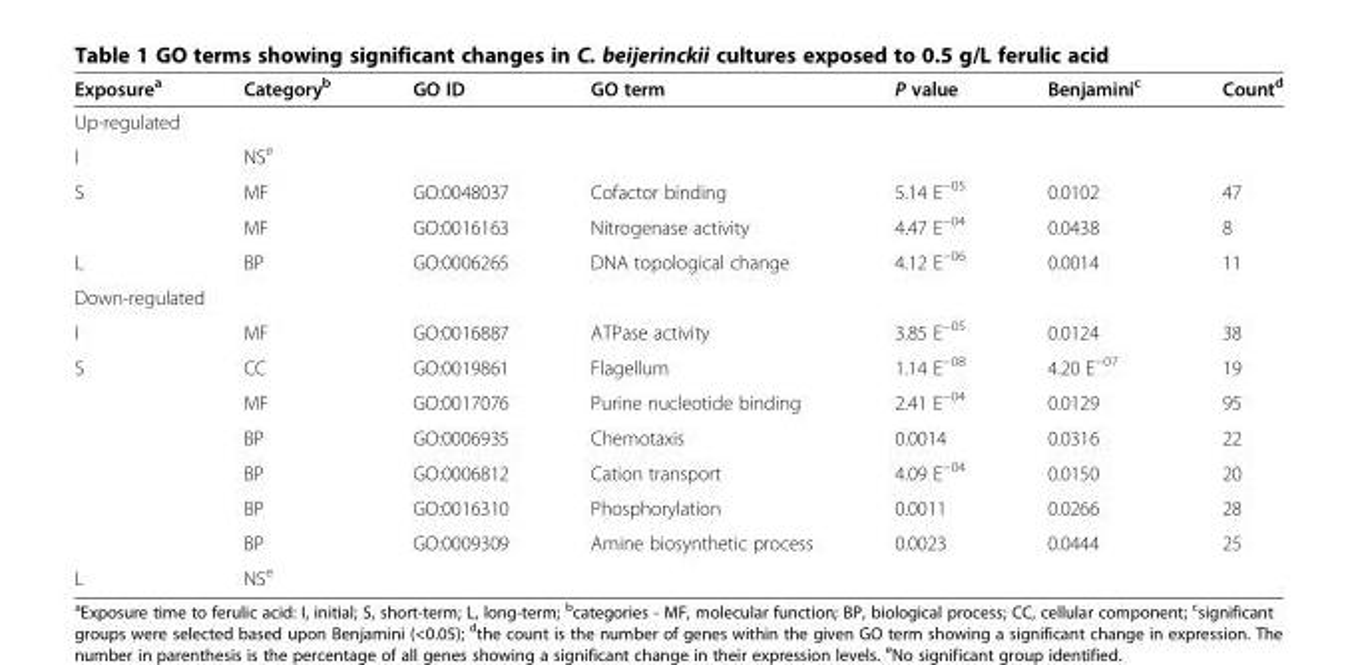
<table><thead><tr><td>Exposure<sup>a</sup></td><td>Category<sup>b</sup></td><td>GO ID</td><td>GO term</td><td>P value</td><td>Benjamini<sup>c</sup></td><td>Count<sup>d</sup></td></tr></thead><tbody><tr><td colspan="7">Up-regulated</td></tr><tr><td>I</td><td>NS<sup>e</sup></td><td></td><td></td><td></td><td></td><td></td></tr><tr><td rowspan="2">S</td><td>MF</td><td>GO:0048037</td><td>Cofactor binding</td><td>5.14 E<sup>−05</sup></td><td>0.0102</td><td>47</td></tr><tr><td>MF</td><td>GO:0016163</td><td>Nitrogenase activity</td><td>4.47 E<sup>−04</sup></td><td>0.0438</td><td>8</td></tr><tr><td>L</td><td>BP</td><td>GO:0006265</td><td>DNA topological change</td><td>4.12 E<sup>−06</sup></td><td>0.0014</td><td>11</td></tr><tr><td colspan="7">Down-regulated</td></tr><tr><td>I</td><td>MF</td><td>GO:0016887</td><td>ATPase activity</td><td>3.85 E<sup>−05</sup></td><td>0.0124</td><td>38</td></tr><tr><td rowspan="6">S</td><td>CC</td><td>GO:0019861</td><td>Flagellum</td><td>1.14 E<sup>−08</sup></td><td>4.20 E<sup>−07</sup></td><td>19</td></tr><tr><td>MF</td><td>GO:0017076</td><td>Purine nucleotide binding</td><td>2.41 E<sup>−04</sup></td><td>0.0129</td><td>95</td></tr><tr><td>BP</td><td>GO:0006935</td><td>Chemotaxis</td><td>0.0014</td><td>0.0316</td><td>22</td></tr><tr><td>BP</td><td>GO:0006812</td><td>Cation transport</td><td>4.09 E<sup>−04</sup></td><td>0.0150</td><td>20</td></tr><tr><td>BP</td><td>GO:0016310</td><td>Phosphorylation</td><td>0.0011</td><td>0.0266</td><td>28</td></tr><tr><td>BP</td><td>GO:0009309</td><td>Amine biosynthetic process</td><td>0.0023</td><td>0.0444</td><td>25</td></tr><tr><td>L</td><td>NS<sup>e</sup></td><td></td><td></td><td></td><td></td><td></td></tr></tbody></table>